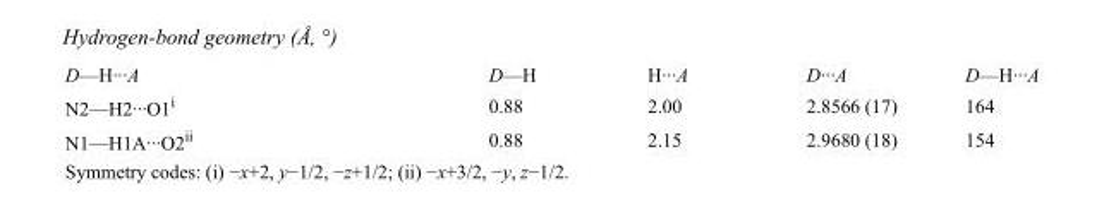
<table><tbody><tr><td>D—H···A</td><td>D—H</td><td>H···A</td><td>D···A</td><td>D—H···A</td></tr><tr><td>N2—H2···O1<sup>i</sup></td><td>0.88</td><td>2.00</td><td>2.8566 (17)</td><td>164</td></tr><tr><td>N1—H1A···O2<sup>ii</sup></td><td>0.88</td><td>2.15</td><td>2.9680 (18)</td><td>154</td></tr></tbody></table>